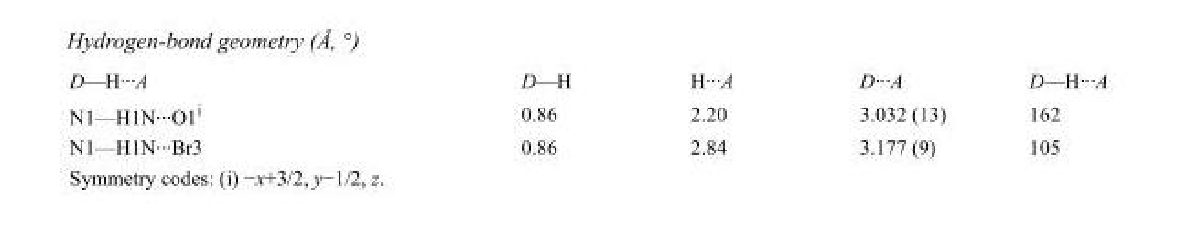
<table><tbody><tr><td>D—H···A</td><td>D—H</td><td>H···A</td><td>D···A</td><td>D—H···A</td></tr><tr><td>N1—H1N···O1<sup>i</sup></td><td>0.86</td><td>2.20</td><td>3.032 (13)</td><td>162</td></tr><tr><td>N1—H1N···Br3</td><td>0.86</td><td>2.84</td><td>3.177 (9)</td><td>105</td></tr></tbody></table>